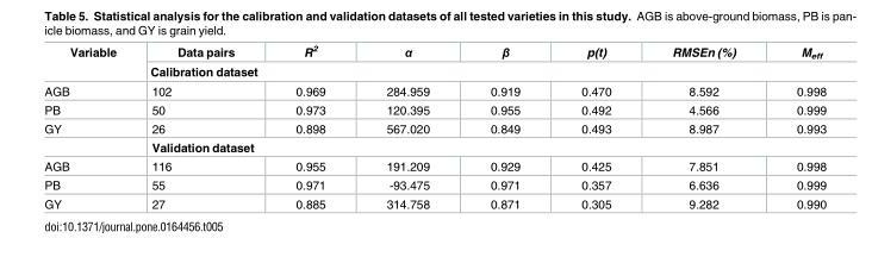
<table><thead><tr><td rowspan="2">Variable</td><td>Data pairs</td><td>R<sup>2</sup></td><td>α</td><td>β</td><td>p(t)</td><td>RMSEn (%)</td><td>M<sub>eff</sub></td></tr><tr><td colspan="7">Calibration dataset</td></tr></thead><tbody><tr><td>AGB</td><td>102</td><td>0.969</td><td>284.959</td><td>0.919</td><td>0.470</td><td>8.592</td><td>0.998</td></tr><tr><td>PB</td><td>50</td><td>0.973</td><td>120.395</td><td>0.955</td><td>0.492</td><td>4.566</td><td>0.999</td></tr><tr><td rowspan="2">GY</td><td>26</td><td>0.898</td><td>567.020</td><td>0.849</td><td>0.493</td><td>8.987</td><td>0.993</td></tr><tr><td colspan="7">Validation dataset</td></tr><tr><td>AGB</td><td>116</td><td>0.955</td><td>191.209</td><td>0.929</td><td>0.425</td><td>7.851</td><td>0.998</td></tr><tr><td>PB</td><td>55</td><td>0.971</td><td>-93.475</td><td>0.971</td><td>0.357</td><td>6.636</td><td>0.999</td></tr><tr><td>GY</td><td>27</td><td>0.885</td><td>314.758</td><td>0.871</td><td>0.305</td><td>9.282</td><td>0.990</td></tr></tbody></table>